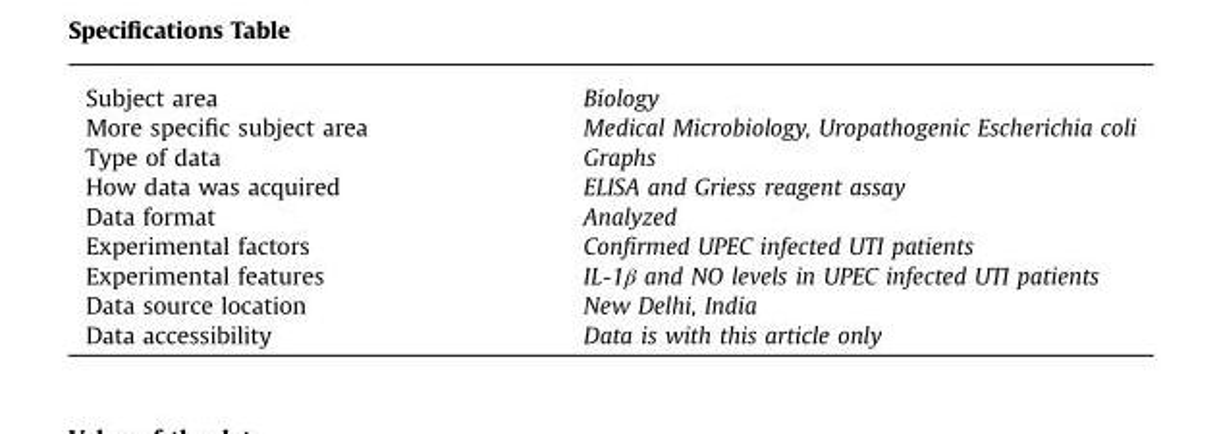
<table><tbody><tr><td>Subject area</td><td>Biology</td></tr><tr><td>More specific subject area</td><td>Medical Microbiology, Uropathogenic Escherichia coli</td></tr><tr><td>Type of data</td><td>Graphs</td></tr><tr><td>How data was acquired</td><td>ELISA and Griess reagent assay</td></tr><tr><td>Data format</td><td>Analyzed</td></tr><tr><td>Experimental factors</td><td>Confirmed UPEC infected UTI patients</td></tr><tr><td>Experimental features</td><td>IL-1β and NO levels in UPEC infected UTI patients</td></tr><tr><td>Data source location</td><td>New Delhi, India</td></tr><tr><td>Data accessibility</td><td>Data is with this article only</td></tr></tbody></table>